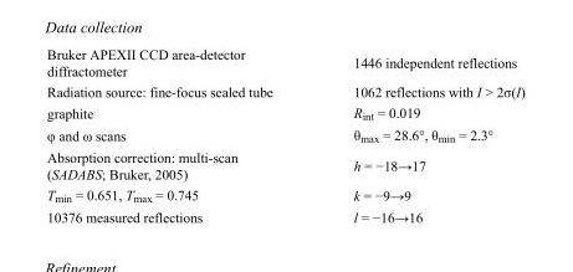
<table><tbody><tr><td>Bruker APEXII CCD area-detector diffractometer</td><td>1446 independent reflections</td></tr><tr><td>Radiation source: fine-focus sealed tube</td><td>1062 reflections with I &gt; 2σ(I)</td></tr><tr><td>graphite</td><td>R<sub>int</sub> = 0.019</td></tr><tr><td>φ and ω scans</td><td>θ<sub>max</sub> = 28.6°, θ<sub>min</sub> = 2.3°</td></tr><tr><td>Absorption correction: multi-scan (SADABS; Bruker, 2005)</td><td>h = −18→17</td></tr><tr><td>T<sub>min</sub> = 0.651, T<sub>max</sub> = 0.745</td><td>k = −9→9</td></tr><tr><td>10376 measured reflections</td><td>l = −16→16</td></tr></tbody></table>